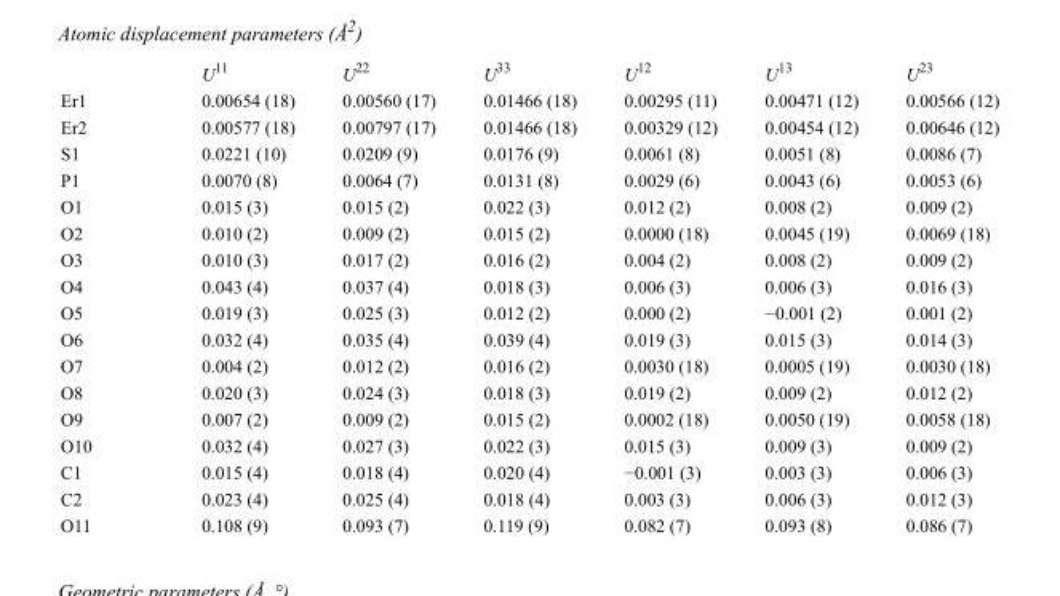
<table><thead><tr><td></td><td>U<sup>11</sup></td><td>U<sup>22</sup></td><td>U<sup>33</sup></td><td>U<sup>12</sup></td><td>U<sup>13</sup></td><td>U<sup>23</sup></td></tr></thead><tbody><tr><td>Er1</td><td>0.00654 (18)</td><td>0.00560 (17)</td><td>0.01466 (18)</td><td>0.00295 (11)</td><td>0.00471 (12)</td><td>0.00566 (12)</td></tr><tr><td>Er2</td><td>0.00577 (18)</td><td>0.00797 (17)</td><td>0.01466 (18)</td><td>0.00329 (12)</td><td>0.00454 (12)</td><td>0.00646 (12)</td></tr><tr><td>S1</td><td>0.0221 (10)</td><td>0.0209 (9)</td><td>0.0176 (9)</td><td>0.0061 (8)</td><td>0.0051 (8)</td><td>0.0086 (7)</td></tr><tr><td>P1</td><td>0.0070 (8)</td><td>0.0064 (7)</td><td>0.0131 (8)</td><td>0.0029 (6)</td><td>0.0043 (6)</td><td>0.0053 (6)</td></tr><tr><td>O1</td><td>0.015 (3)</td><td>0.015 (2)</td><td>0.022 (3)</td><td>0.012 (2)</td><td>0.008 (2)</td><td>0.009 (2)</td></tr><tr><td>O2</td><td>0.010 (2)</td><td>0.009 (2)</td><td>0.015 (2)</td><td>0.0000 (18)</td><td>0.0045 (19)</td><td>0.0069 (18)</td></tr><tr><td>O3</td><td>0.010 (3)</td><td>0.017 (2)</td><td>0.016 (2)</td><td>0.004 (2)</td><td>0.008 (2)</td><td>0.009 (2)</td></tr><tr><td>O4</td><td>0.043 (4)</td><td>0.037 (4)</td><td>0.018 (3)</td><td>0.006 (3)</td><td>0.006 (3)</td><td>0.016 (3)</td></tr><tr><td>O5</td><td>0.019 (3)</td><td>0.025 (3)</td><td>0.012 (2)</td><td>0.000 (2)</td><td>−0.001 (2)</td><td>0.001 (2)</td></tr><tr><td>O6</td><td>0.032 (4)</td><td>0.035 (4)</td><td>0.039 (4)</td><td>0.019 (3)</td><td>0.015 (3)</td><td>0.014 (3)</td></tr><tr><td>O7</td><td>0.004 (2)</td><td>0.012 (2)</td><td>0.016 (2)</td><td>0.0030 (18)</td><td>0.0005 (19)</td><td>0.0030 (18)</td></tr><tr><td>O8</td><td>0.020 (3)</td><td>0.024 (3)</td><td>0.018 (3)</td><td>0.019 (2)</td><td>0.009 (2)</td><td>0.012 (2)</td></tr><tr><td>O9</td><td>0.007 (2)</td><td>0.009 (2)</td><td>0.015 (2)</td><td>0.0002 (18)</td><td>0.0050 (19)</td><td>0.0058 (18)</td></tr><tr><td>O10</td><td>0.032 (4)</td><td>0.027 (3)</td><td>0.022 (3)</td><td>0.015 (3)</td><td>0.009 (3)</td><td>0.009 (2)</td></tr><tr><td>C1</td><td>0.015 (4)</td><td>0.018 (4)</td><td>0.020 (4)</td><td>−0.001 (3)</td><td>0.003 (3)</td><td>0.006 (3)</td></tr><tr><td>C2</td><td>0.023 (4)</td><td>0.025 (4)</td><td>0.018 (4)</td><td>0.003 (3)</td><td>0.006 (3)</td><td>0.012 (3)</td></tr><tr><td>O11</td><td>0.108 (9)</td><td>0.093 (7)</td><td>0.119 (9)</td><td>0.082 (7)</td><td>0.093 (8)</td><td>0.086 (7)</td></tr></tbody></table>